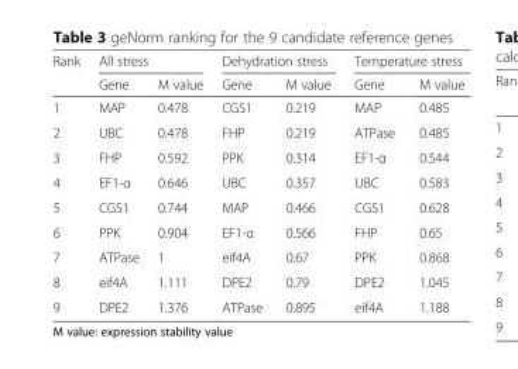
<table><thead><tr><td rowspan="2">Rank</td><td colspan="2">All stress</td><td colspan="2">Dehydration stress</td><td colspan="2">Temperature stress</td></tr><tr><td>Gene</td><td>M value</td><td>Gene</td><td>M value</td><td>Gene</td><td>M value</td></tr></thead><tbody><tr><td>1</td><td>MAP</td><td>0.478</td><td>CGS1</td><td>0.219</td><td>MAP</td><td>0.485</td></tr><tr><td>2</td><td>UBC</td><td>0.478</td><td>FHP</td><td>0.219</td><td>ATPase</td><td>0.485</td></tr><tr><td>3</td><td>FHP</td><td>0.592</td><td>PPK</td><td>0.314</td><td>EF1-α</td><td>0.544</td></tr><tr><td>4</td><td>EF1-α</td><td>0.646</td><td>UBC</td><td>0.357</td><td>UBC</td><td>0.583</td></tr><tr><td>5</td><td>CGS1</td><td>0.744</td><td>MAP</td><td>0.466</td><td>CGS1</td><td>0.628</td></tr><tr><td>6</td><td>PPK</td><td>0.904</td><td>EF1-α</td><td>0.566</td><td>FHP</td><td>0.65</td></tr><tr><td>7</td><td>ATPase</td><td>1</td><td>eif4A</td><td>0.67</td><td>PPK</td><td>0.868</td></tr><tr><td>8</td><td>eif4A</td><td>1.111</td><td>DPE2</td><td>0.79</td><td>DPE2</td><td>1.045</td></tr><tr><td>9</td><td>DPE2</td><td>1.376</td><td>ATPase</td><td>0.895</td><td>eif4A</td><td>1.188</td></tr></tbody></table>